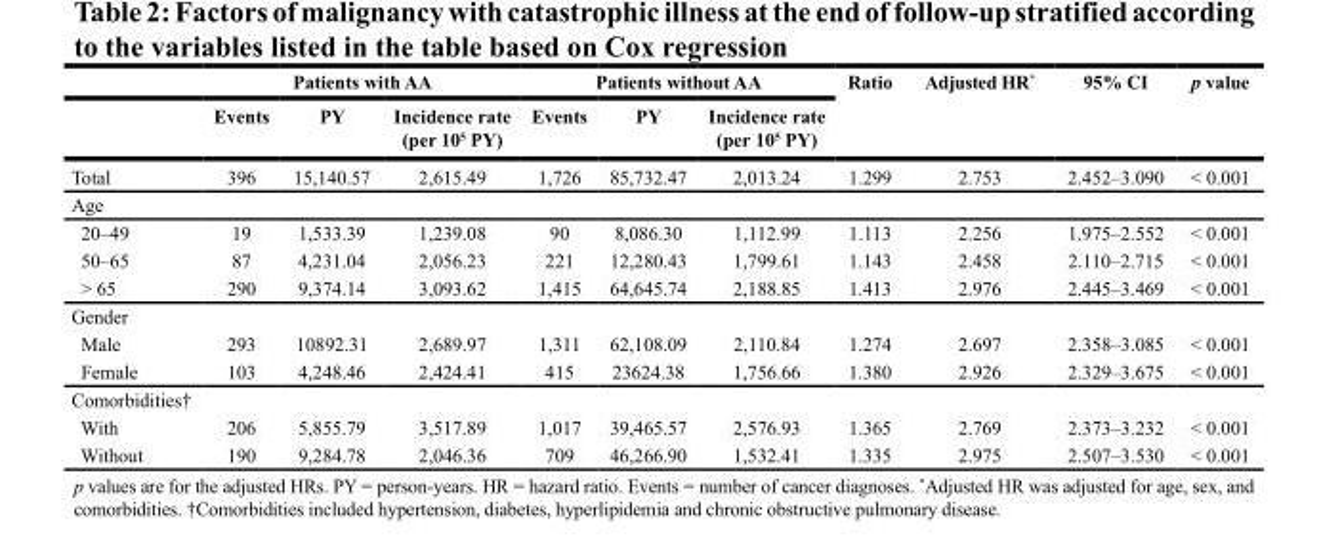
<table><thead><tr><td rowspan="2"></td><td colspan="3">Patients with AA</td><td colspan="3">Patients without AA</td><td rowspan="2">Ratio</td><td rowspan="2">Adjusted HR*</td><td rowspan="2">95% CI</td><td rowspan="2">p value</td></tr><tr><td>Events</td><td>PY</td><td>Incidence rate (per 105 PY)</td><td>Events</td><td>PY</td><td>Incidence rate (per 105 PY)</td></tr></thead><tbody><tr><td>Total</td><td>396</td><td>15,140.57</td><td>2,615.49</td><td>1,726</td><td>85,732.47</td><td>2,013.24</td><td>1.299</td><td>2.753</td><td>2.452–3.090</td><td>&lt; 0.001</td></tr><tr><td colspan="11">Age</td></tr><tr><td>20–49</td><td>19</td><td>1,533.39</td><td>1,239.08</td><td>90</td><td>8,086.30</td><td>1,112.99</td><td>1.113</td><td>2.256</td><td>1.975–2.552</td><td>&lt; 0.001</td></tr><tr><td>50–65</td><td>87</td><td>4,231.04</td><td>2,056.23</td><td>221</td><td>12,280.43</td><td>1,799.61</td><td>1.143</td><td>2.458</td><td>2.110–2.715</td><td>&lt; 0.001</td></tr><tr><td>&gt; 65</td><td>290</td><td>9,374.14</td><td>3,093.62</td><td>1,415</td><td>64,645.74</td><td>2,188.85</td><td>1.413</td><td>2.976</td><td>2.445–3.469</td><td>&lt; 0.001</td></tr><tr><td colspan="11">Gender</td></tr><tr><td>Male</td><td>293</td><td>10892.31</td><td>2,689.97</td><td>1,311</td><td>62,108.09</td><td>2,110.84</td><td>1.274</td><td>2.697</td><td>2.358–3.085</td><td>&lt; 0.001</td></tr><tr><td>Female</td><td>103</td><td>4,248.46</td><td>2,424.41</td><td>415</td><td>23624.38</td><td>1,756.66</td><td>1.380</td><td>2.926</td><td>2.329–3.675</td><td>&lt; 0.001</td></tr><tr><td colspan="11">Comorbidities†</td></tr><tr><td>With</td><td>206</td><td>5,855.79</td><td>3,517.89</td><td>1,017</td><td>39,465.57</td><td>2,576.93</td><td>1.365</td><td>2.769</td><td>2.373–3.232</td><td>&lt; 0.001</td></tr><tr><td>Without</td><td>190</td><td>9,284.78</td><td>2,046.36</td><td>709</td><td>46,266.90</td><td>1,532.41</td><td>1.335</td><td>2.975</td><td>2.507–3.530</td><td>&lt; 0.001</td></tr></tbody></table>